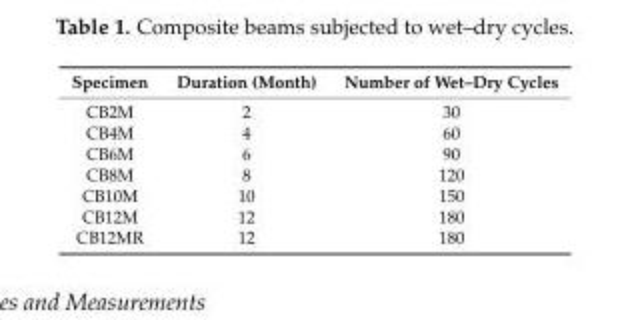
<table><thead><tr><td>Specimen</td><td>Duration (Month)</td><td>Number of Wet–Dry Cycles</td></tr></thead><tbody><tr><td>CB2M</td><td>2</td><td>30</td></tr><tr><td>CB4M</td><td>4</td><td>60</td></tr><tr><td>CB6M</td><td>6</td><td>90</td></tr><tr><td>CB8M</td><td>8</td><td>120</td></tr><tr><td>CB10M</td><td>10</td><td>150</td></tr><tr><td>CB12M</td><td>12</td><td>180</td></tr><tr><td>CB12MR</td><td>12</td><td>180</td></tr></tbody></table>